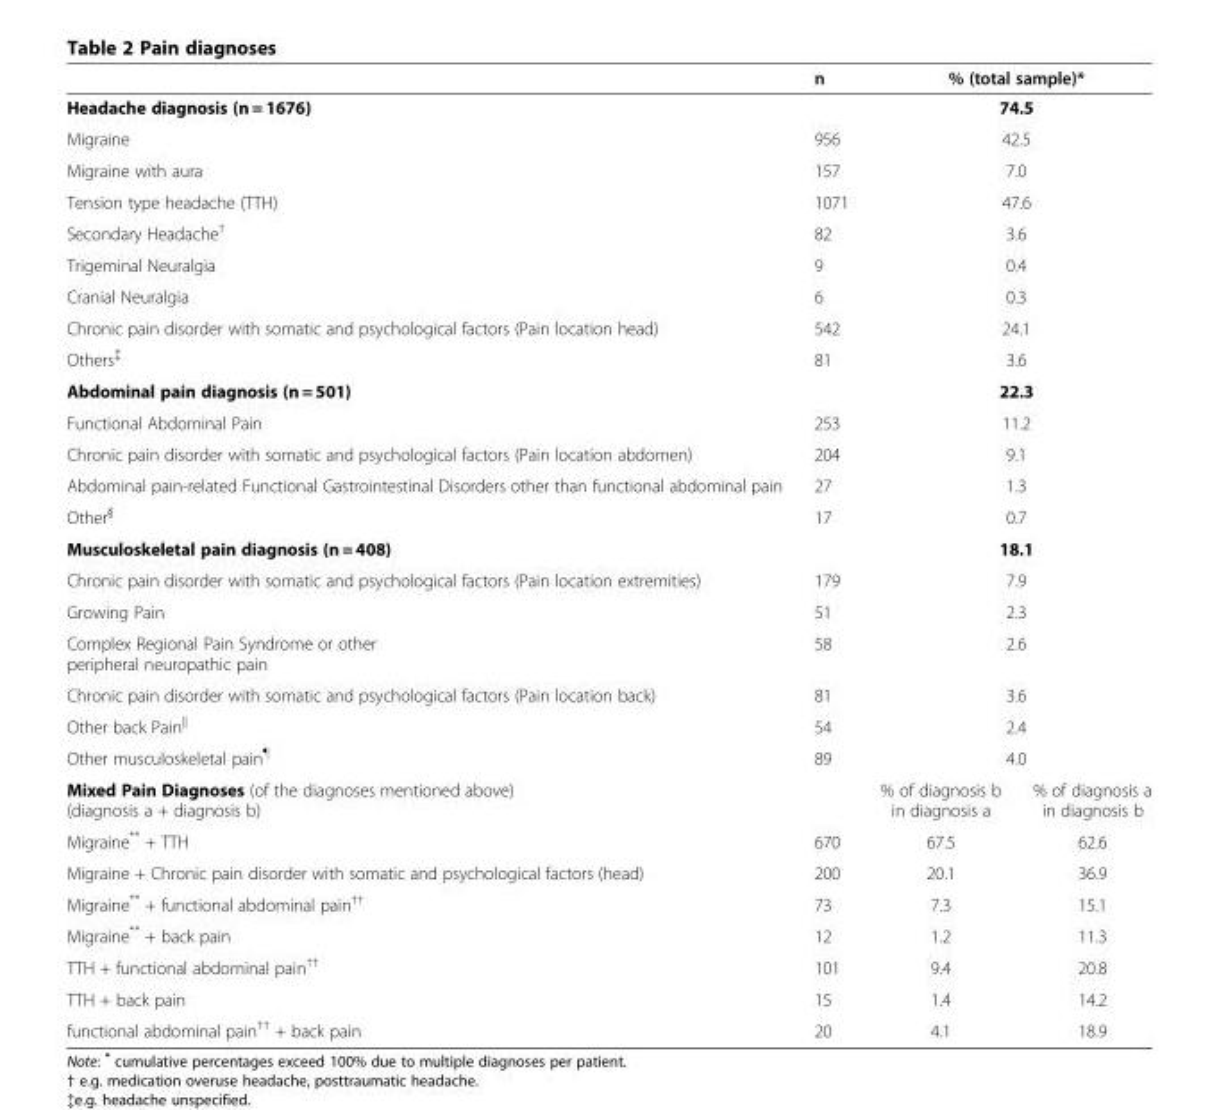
<table><thead><tr><td></td><td>n</td><td colspan="2">% (total sample)*</td></tr></thead><tbody><tr><td>Headache diagnosis (n = 1676)</td><td></td><td colspan="2">74.5</td></tr><tr><td>Migraine</td><td>956</td><td colspan="2">42.5</td></tr><tr><td>Migraine with aura</td><td>157</td><td colspan="2">7.0</td></tr><tr><td>Tension type headache (TTH)</td><td>1071</td><td colspan="2">47.6</td></tr><tr><td>Secondary Headache<sup>†</sup></td><td>82</td><td colspan="2">3.6</td></tr><tr><td>Trigeminal Neuralgia</td><td>9</td><td colspan="2">0.4</td></tr><tr><td>Cranial Neuralgia</td><td>6</td><td colspan="2">0.3</td></tr><tr><td>Chronic pain disorder with somatic and psychological factors (Pain location head)</td><td>542</td><td colspan="2">24.1</td></tr><tr><td>Others<sup>‡</sup></td><td>81</td><td colspan="2">3.6</td></tr><tr><td>Abdominal pain diagnosis (n = 501)</td><td></td><td colspan="2">22.3</td></tr><tr><td>Functional Abdominal Pain</td><td>253</td><td colspan="2">11.2</td></tr><tr><td>Chronic pain disorder with somatic and psychological factors (Pain location abdomen)</td><td>204</td><td colspan="2">9.1</td></tr><tr><td>Abdominal pain-related Functional Gastrointestinal Disorders other than functional abdominal pain</td><td>27</td><td colspan="2">1.3</td></tr><tr><td>Other<sup>§</sup></td><td>17</td><td colspan="2">0.7</td></tr><tr><td>Musculoskeletal pain diagnosis (n = 408)</td><td></td><td colspan="2">18.1</td></tr><tr><td>Chronic pain disorder with somatic and psychological factors (Pain location extremities)</td><td>179</td><td colspan="2">7.9</td></tr><tr><td>Growing Pain</td><td>51</td><td colspan="2">2.3</td></tr><tr><td>Complex Regional Pain Syndrome or other peripheral neuropathic pain</td><td>58</td><td colspan="2">2.6</td></tr><tr><td>Chronic pain disorder with somatic and psychological factors (Pain location back)</td><td>81</td><td colspan="2">3.6</td></tr><tr><td>Other back Pain<sup>||</sup></td><td>54</td><td colspan="2">2.4</td></tr><tr><td>Other musculoskeletal pain<sup>¶</sup></td><td>89</td><td colspan="2">4.0</td></tr><tr><td>Mixed Pain Diagnoses (of the diagnoses mentioned above) (diagnosis a + diagnosis b)</td><td></td><td>% of diagnosis b in diagnosis a</td><td>% of diagnosis a in diagnosis b</td></tr><tr><td>Migraine** + TTH</td><td>670</td><td>67.5</td><td>62.6</td></tr><tr><td>Migraine + Chronic pain disorder with somatic and psychological factors (head)</td><td>200</td><td>20.1</td><td>36.9</td></tr><tr><td>Migraine** + functional abdominal pain<sup>††</sup></td><td>73</td><td>7.3</td><td>15.1</td></tr><tr><td>Migraine** + back pain</td><td>12</td><td>1.2</td><td>11.3</td></tr><tr><td>TTH + functional abdominal pain<sup>††</sup></td><td>101</td><td>9.4</td><td>20.8</td></tr><tr><td>TTH + back pain</td><td>15</td><td>1.4</td><td>14.2</td></tr><tr><td>functional abdominal pain<sup>††</sup> + back pain</td><td>20</td><td>4.1</td><td>18.9</td></tr></tbody></table>